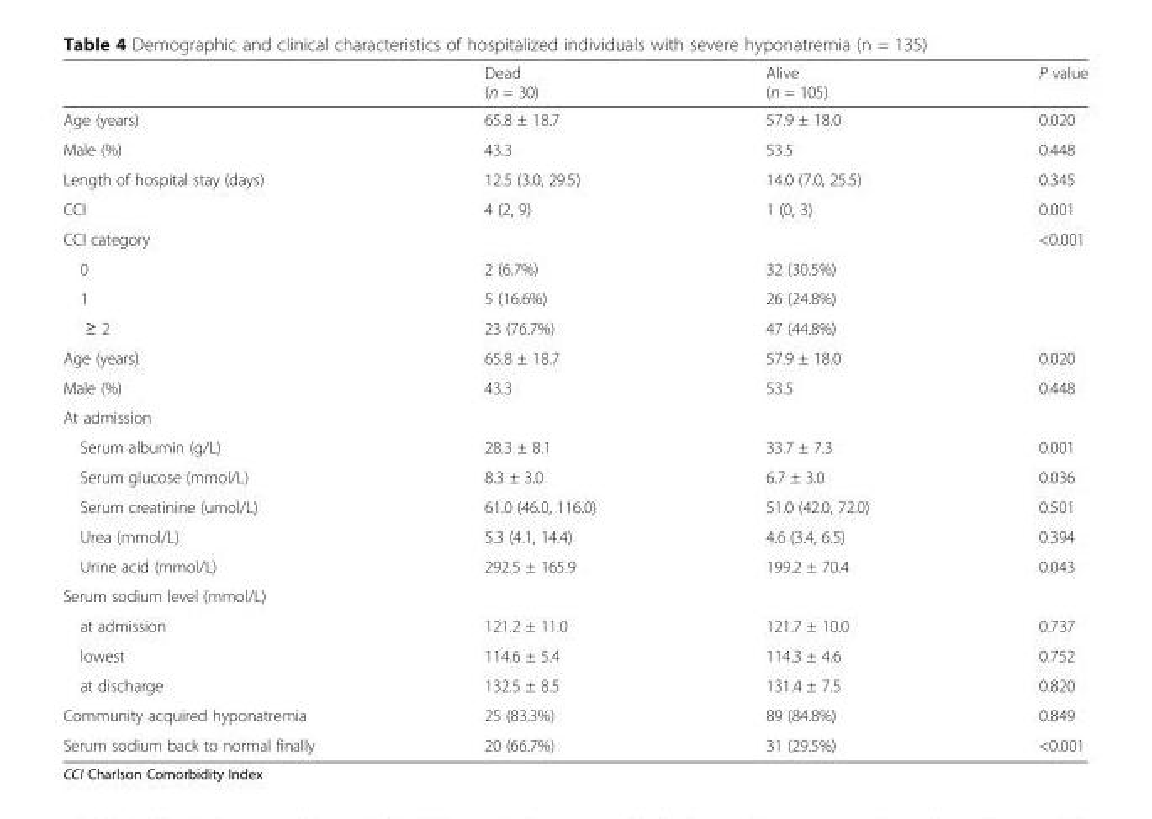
<table><thead><tr><td></td><td>Dead (n = 30)</td><td>Alive (n = 105)</td><td>P value</td></tr></thead><tbody><tr><td>Age (years)</td><td>65.8 ± 18.7</td><td>57.9 ± 18.0</td><td>0.020</td></tr><tr><td>Male (%)</td><td>43.3</td><td>53.5</td><td>0.448</td></tr><tr><td>Length of hospital stay (days)</td><td>12.5 (3.0, 29.5)</td><td>14.0 (7.0, 25.5)</td><td>0.345</td></tr><tr><td>CCI</td><td>4 (2, 9)</td><td>1 (0, 3)</td><td>0.001</td></tr><tr><td>CCI category</td><td></td><td></td><td>&lt;0.001</td></tr><tr><td>0</td><td>2 (6.7%)</td><td>32 (30.5%)</td><td></td></tr><tr><td>1</td><td>5 (16.6%)</td><td>26 (24.8%)</td><td></td></tr><tr><td>≥ 2</td><td>23 (76.7%)</td><td>47 (44.8%)</td><td></td></tr><tr><td>Age (years)</td><td>65.8 ± 18.7</td><td>57.9 ± 18.0</td><td>0.020</td></tr><tr><td>Male (%)</td><td>43.3</td><td>53.5</td><td>0.448</td></tr><tr><td colspan="4">At admission</td></tr><tr><td>Serum albumin (g/L)</td><td>28.3 ± 8.1</td><td>33.7 ± 7.3</td><td>0.001</td></tr><tr><td>Serum glucose (mmol/L)</td><td>8.3 ± 3.0</td><td>6.7 ± 3.0</td><td>0.036</td></tr><tr><td>Serum creatinine (umol/L)</td><td>61.0 (46.0, 116.0)</td><td>51.0 (42.0, 72.0)</td><td>0.501</td></tr><tr><td>Urea (mmol/L)</td><td>5.3 (4.1, 14.4)</td><td>4.6 (3.4, 6.5)</td><td>0.394</td></tr><tr><td>Urine acid (mmol/L)</td><td>292.5 ± 165.9</td><td>199.2 ± 70.4</td><td>0.043</td></tr><tr><td colspan="4">Serum sodium level (mmol/L)</td></tr><tr><td>at admission</td><td>121.2 ± 11.0</td><td>121.7 ± 10.0</td><td>0.737</td></tr><tr><td>lowest</td><td>114.6 ± 5.4</td><td>114.3 ± 4.6</td><td>0.752</td></tr><tr><td>at discharge</td><td>132.5 ± 8.5</td><td>131.4 ± 7.5</td><td>0.820</td></tr><tr><td>Community acquired hyponatremia</td><td>25 (83.3%)</td><td>89 (84.8%)</td><td>0.849</td></tr><tr><td>Serum sodium back to normal finally</td><td>20 (66.7%)</td><td>31 (29.5%)</td><td>&lt;0.001</td></tr></tbody></table>